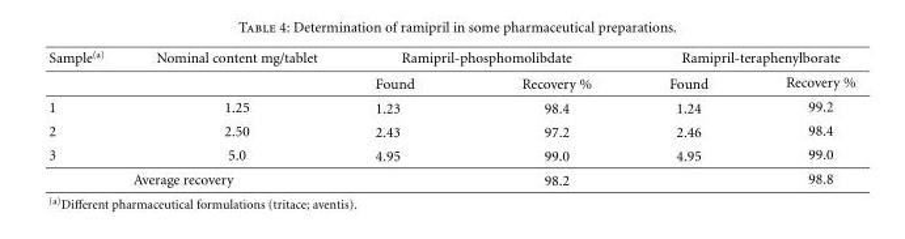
<table><thead><tr><td rowspan="2">Sample<sup>(a)</sup></td><td rowspan="2">Nominal content mg/tablet</td><td colspan="2">Ramipril-phosphomolibdate</td><td colspan="2">Ramipril-teraphenylborate</td></tr><tr><td>Found</td><td>Recovery %</td><td>Found</td><td>Recovery %</td></tr></thead><tbody><tr><td>1</td><td>1.25</td><td>1.23</td><td>98.4</td><td>1.24</td><td>99.2</td></tr><tr><td>2</td><td>2.50</td><td>2.43</td><td>97.2</td><td>2.46</td><td>98.4</td></tr><tr><td>3</td><td>5.0</td><td>4.95</td><td>99.0</td><td>4.95</td><td>99.0</td></tr><tr><td colspan="2">Average recovery</td><td></td><td>98.2</td><td></td><td>98.8</td></tr></tbody></table>